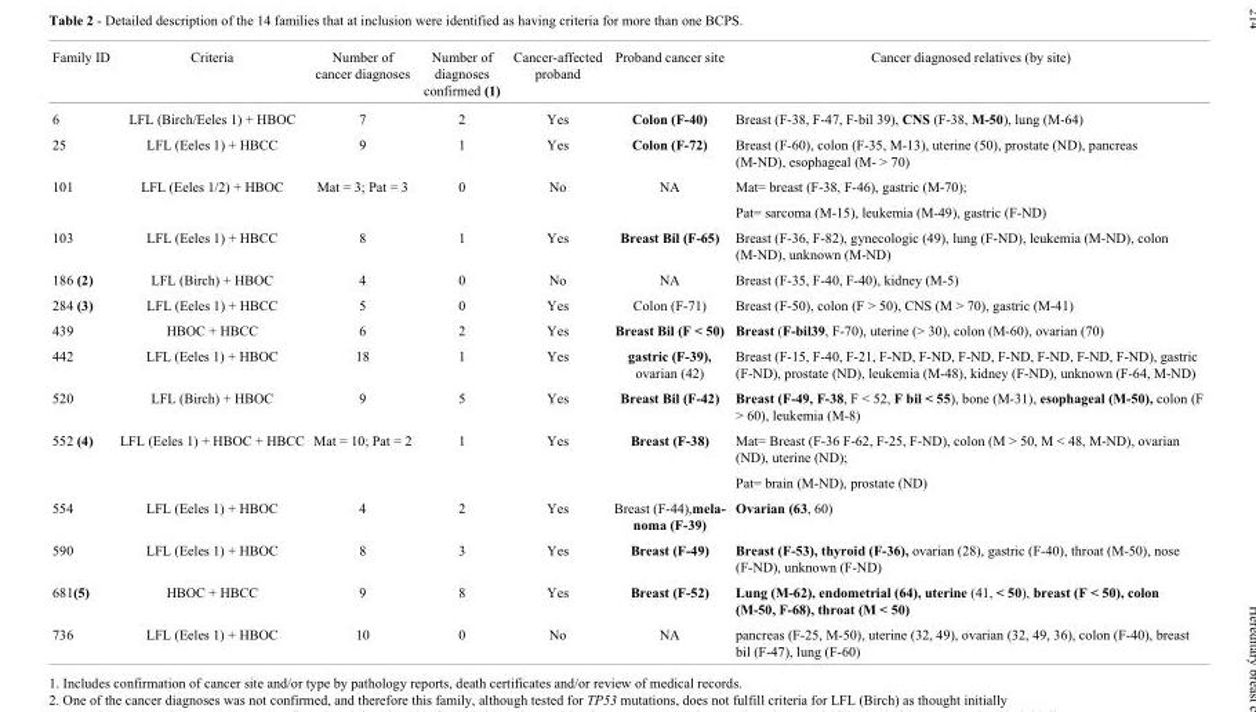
<table><thead><tr><td>Family ID</td><td>Criteria</td><td>Number of cancer diagnoses</td><td>Number of diagnoses confirmed (1)</td><td>Cancer-affected proband</td><td>Proband cancer site</td><td>Cancer diagnosed relatives (by site)</td></tr></thead><tbody><tr><td>6</td><td>LFL (Birch/Eeles 1) + HBOC</td><td>7</td><td>2</td><td>Yes</td><td>Colon (F-40)</td><td>Breast (F-38, F-47, F-bil 39), CNS (F-38, M-50), lung (M-64)</td></tr><tr><td>25</td><td>LFL (Eeles 1) + HBCC</td><td>9</td><td>1</td><td>Yes</td><td>Colon (F-72)</td><td>Breast (F-60), colon (F-35, M-13), uterine (50), prostate (ND), pancreas (M-ND), esophageal (M- &gt; 70)</td></tr><tr><td rowspan="2">101</td><td>LFL (Eeles 1/2) + HBOC</td><td>Mat = 3; Pat = 3</td><td>0</td><td>No</td><td>NA</td><td>Mat= breast (F-38, F-46), gastric (M-70);</td></tr><tr><td></td><td></td><td></td><td></td><td></td><td>Pat= sarcoma (M-15), leukemia (M-49), gastric (F-ND)</td></tr><tr><td>103</td><td>LFL (Eeles 1) + HBCC</td><td>8</td><td>1</td><td>Yes</td><td>Breast Bil (F-65)</td><td>Breast (F-36, F-82), gynecologic (49), lung (F-ND), leukemia (M-ND), colon (M-ND), unknown (M-ND)</td></tr><tr><td>186 (2)</td><td>LFL (Birch) + HBOC</td><td>4</td><td>0</td><td>No</td><td>NA</td><td>Breast (F-35, F-40, F-40), kidney (M-5)</td></tr><tr><td>284 (3)</td><td>LFL (Eeles 1) + HBCC</td><td>5</td><td>0</td><td>Yes</td><td>Colon (F-71)</td><td>Breast (F-50), colon (F &gt; 50), CNS (M &gt; 70), gastric (M-41)</td></tr><tr><td>439</td><td>HBOC + HBCC</td><td>6</td><td>2</td><td>Yes</td><td>Breast Bil (F &lt; 50)</td><td>Breast (F-bil39, F-70), uterine (&gt; 30), colon (M-60), ovarian (70)</td></tr><tr><td>442</td><td>LFL (Eeles 1) + HBOC</td><td>18</td><td>1</td><td>Yes</td><td>gastric (F-39), ovarian (42)</td><td>Breast (F-15, F-40, F-21, F-ND, F-ND, F-ND, F-ND, F-ND, F-ND, F-ND), gastric (F-ND), prostate (ND), leukemia (M-48), kidney (F-ND), unknown (F-64, M-ND)</td></tr><tr><td>520</td><td>LFL (Birch) + HBOC</td><td>9</td><td>5</td><td>Yes</td><td>Breast Bil (F-42)</td><td>Breast (F-49, F-38, F &lt; 52, F bil &lt; 55), bone (M-31), esophageal (M-50), colon (F &gt; 60), leukemia (M-8)</td></tr><tr><td rowspan="2">552 (4)</td><td>LFL (Eeles 1) + HBOC + HBCC</td><td>Mat = 10; Pat = 2</td><td>1</td><td>Yes</td><td>Breast (F-38)</td><td>Mat= Breast (F-36 F-62, F-25, F-ND), colon (M &gt; 50, M &lt; 48, M-ND), ovarian (ND), uterine (ND);</td></tr><tr><td></td><td></td><td></td><td></td><td></td><td>Pat= brain (M-ND), prostate (ND)</td></tr><tr><td>554</td><td>LFL (Eeles 1) + HBOC</td><td>4</td><td>2</td><td>Yes</td><td>Breast (F-44),mela- noma (F-39)</td><td>Ovarian (63, 60)</td></tr><tr><td>590</td><td>LFL (Eeles 1) + HBOC</td><td>8</td><td>3</td><td>Yes</td><td>Breast (F-49)</td><td>Breast (F-53), thyroid (F-36), ovarian (28), gastric (F-40), throat (M-50), nose (F-ND), unknown (F-ND)</td></tr><tr><td>681(5)</td><td>HBOC + HBCC</td><td>9</td><td>8</td><td>Yes</td><td>Breast (F-52)</td><td>Lung (M-62), endometrial (64), uterine (41, &lt; 50), breast (F &lt; 50), colon (M-50, F-68), throat (M &lt; 50)</td></tr><tr><td>736</td><td>LFL (Eeles 1) + HBOC</td><td>10</td><td>0</td><td>No</td><td>NA</td><td>pancreas (F-25, M-50), uterine (32, 49), ovarian (32, 49, 36), colon (F-40), breast bil (F-47), lung (F-60)</td></tr></tbody></table>